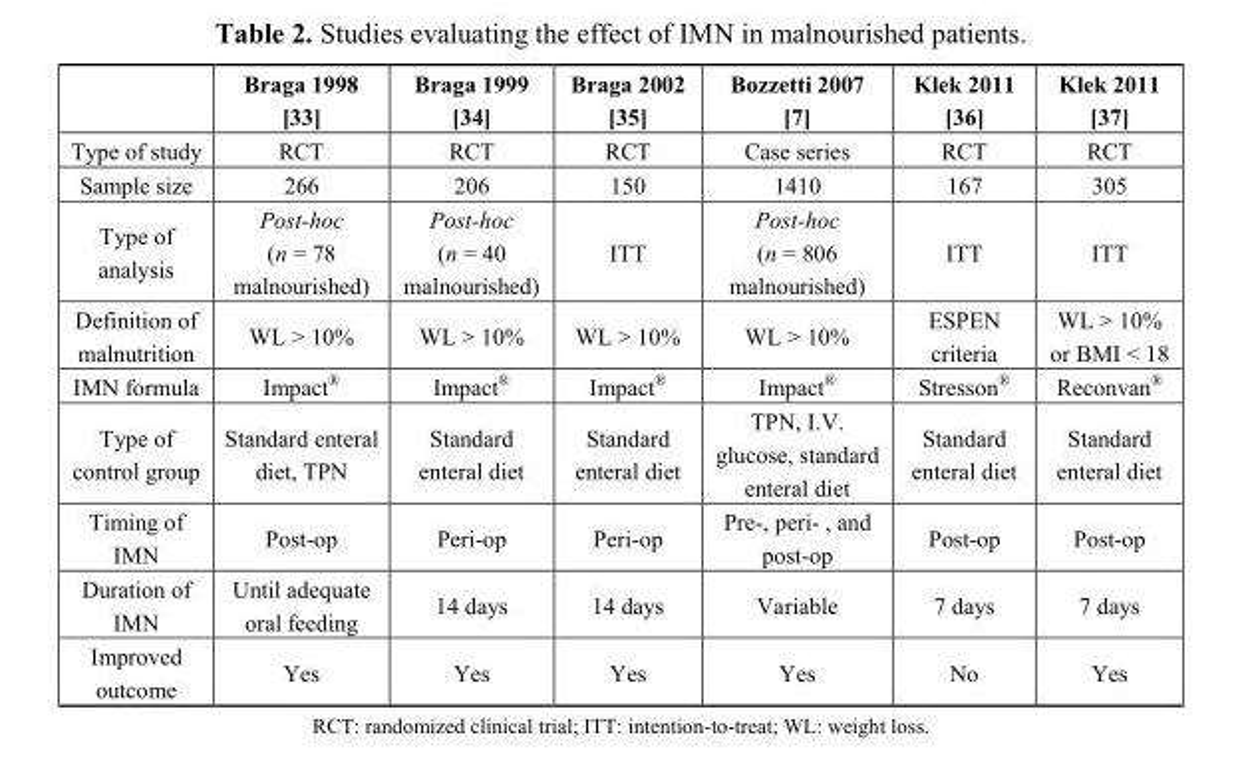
<table><thead><tr><td></td><td>Braga 1998 [33]</td><td>Braga 1999 [34]</td><td>Braga 2002 [35]</td><td>Bozzetti 2007 [7]</td><td>Klek 2011 [36]</td><td>Klek 2011 [37]</td></tr></thead><tbody><tr><td>Type of study</td><td>RCT</td><td>RCT</td><td>RCT</td><td>Case series</td><td>RCT</td><td>RCT</td></tr><tr><td>Sample size</td><td>266</td><td>206</td><td>150</td><td>1410</td><td>167</td><td>305</td></tr><tr><td>Type of analysis</td><td>Post-hoc (n = 78 malnourished)</td><td>Post-hoc (n = 40 malnourished)</td><td>ITT</td><td>Post-hoc (n = 806 malnourished)</td><td>ITT</td><td>ITT</td></tr><tr><td>Definition of malnutrition</td><td>WL &gt; 10%</td><td>WL &gt; 10%</td><td>WL &gt; 10%</td><td>WL &gt; 10%</td><td>ESPEN criteria</td><td>WL &gt; 10% or BMI &lt; 18</td></tr><tr><td>IMN formula</td><td>Impact<sup>®</sup></td><td>Impact<sup>®</sup></td><td>Impact<sup>®</sup></td><td>Impact<sup>®</sup></td><td>Stresson<sup>®</sup></td><td>Reconvan<sup>®</sup></td></tr><tr><td>Type of control group</td><td>Standard enteral diet, TPN</td><td>Standard enteral diet</td><td>Standard enteral diet</td><td>TPN, I.V. glucose, standard enteral diet</td><td>Standard enteral diet</td><td>Standard enteral diet</td></tr><tr><td>Timing of IMN</td><td>Post-op</td><td>Peri-op</td><td>Peri-op</td><td>Pre-, peri- , and post-op</td><td>Post-op</td><td>Post-op</td></tr><tr><td>Duration of IMN</td><td>Until adequate oral feeding</td><td>14 days</td><td>14 days</td><td>Variable</td><td>7 days</td><td>7 days</td></tr><tr><td>Improved outcome</td><td>Yes</td><td>Yes</td><td>Yes</td><td>Yes</td><td>No</td><td>Yes</td></tr></tbody></table>